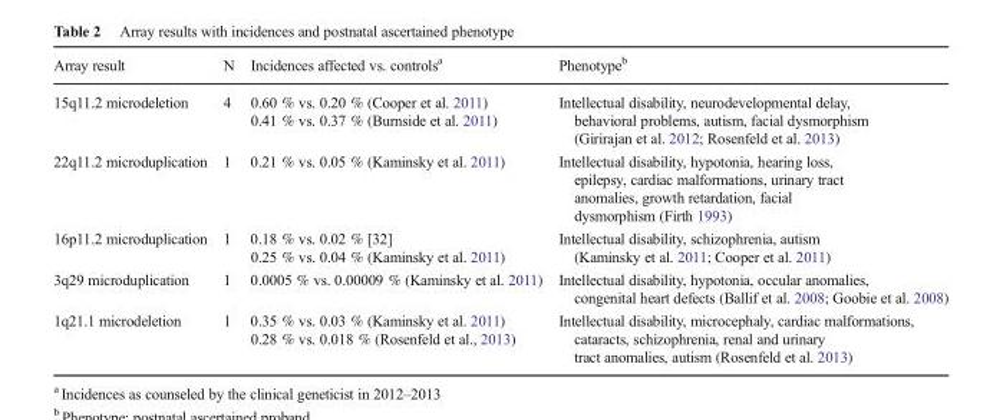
<table><thead><tr><td>Array result</td><td>N</td><td>Incidences affected vs. controls<sup>a</sup></td><td>Phenotype<sup>b</sup></td></tr></thead><tbody><tr><td>15q11.2 microdeletion</td><td>4</td><td>0.60 % vs. 0.20 % (Cooper et al. 2011) 0.41 % vs. 0.37 % (Burnside et al. 2011)</td><td>Intellectual disability, neurodevelopmental delay, behavioral problems, autism, facial dysmorphism (Girirajan et al. 2012; Rosenfeld et al. 2013)</td></tr><tr><td>22q11.2 microduplication</td><td>1</td><td>0.21 % vs. 0.05 % (Kaminsky et al. 2011)</td><td>Intellectual disability, hypotonia, hearing loss, epilepsy, cardiac malformations, urinary tract anomalies, growth retardation, facial dysmorphism (Firth 1993)</td></tr><tr><td>16p11.2 microduplication</td><td>1</td><td>0.18 % vs. 0.02 % [32] 0.25 % vs. 0.04 % (Kaminsky et al. 2011)</td><td>Intellectual disability, schizophrenia, autism (Kaminsky et al. 2011; Cooper et al. 2011)</td></tr><tr><td>3q29 microduplication</td><td>1</td><td>0.0005 % vs. 0.00009 % (Kaminsky et al. 2011)</td><td>Intellectual disability, hypotonia, occular anomalies, congenital heart defects (Ballif et al. 2008; Goobie et al. 2008)</td></tr><tr><td>1q21.1 microdeletion</td><td>1</td><td>0.35 % vs. 0.03 % (Kaminsky et al. 2011) 0.28 % vs. 0.018 % (Rosenfeld et al., 2013)</td><td>Intellectual disability, microcephaly, cardiac malformations, cataracts, schizophrenia, renal and urinary tract anomalies, autism (Rosenfeld et al. 2013)</td></tr></tbody></table>